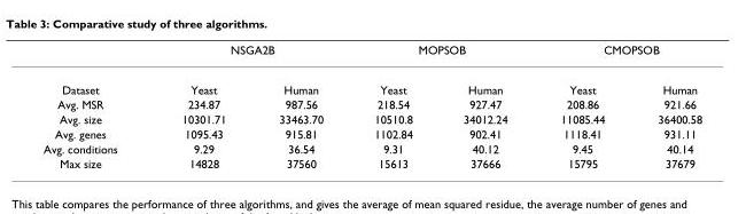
<table><thead><tr><td rowspan="2">Dataset</td><td colspan="2">NSGA2B</td><td colspan="2">MOPSOB</td><td colspan="2">CMOPSOB</td></tr><tr><td>Yeast</td><td>Human</td><td>Yeast</td><td>Human</td><td>Yeast</td><td>Human</td></tr></thead><tbody><tr><td>Avg. MSR</td><td>234.87</td><td>987.56</td><td>218.54</td><td>927.47</td><td>208.86</td><td>921.66</td></tr><tr><td>Avg. size</td><td>10301.71</td><td>33463.70</td><td>10510.8</td><td>34012.24</td><td>11085.44</td><td>36400.58</td></tr><tr><td>Avg. genes</td><td>1095.43</td><td>915.81</td><td>1102.84</td><td>902.41</td><td>1118.41</td><td>931.11</td></tr><tr><td>Avg. conditions</td><td>9.29</td><td>36.54</td><td>9.31</td><td>40.12</td><td>9.45</td><td>40.14</td></tr><tr><td>Max size</td><td>14828</td><td>37560</td><td>15613</td><td>37666</td><td>15795</td><td>37679</td></tr></tbody></table>